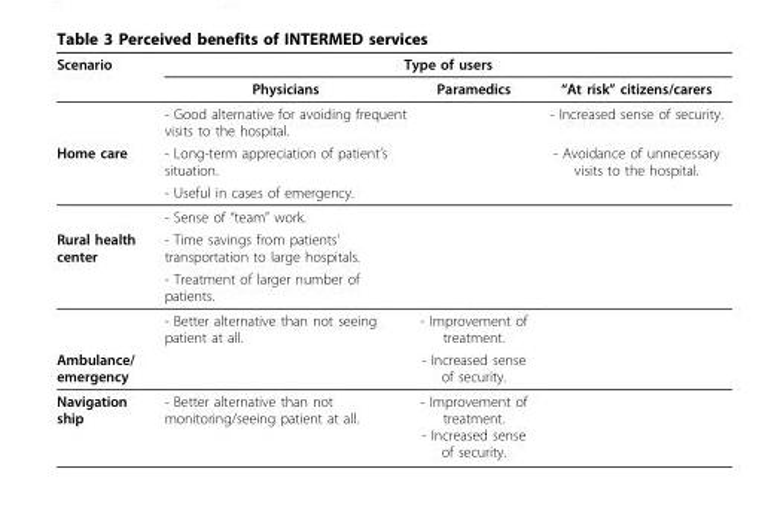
<table><thead><tr><td rowspan="2">Scenario</td><td colspan="3">Type of users</td></tr><tr><td>Physicians</td><td>Paramedics</td><td>“At risk” citizens/carers</td></tr></thead><tbody><tr><td></td><td>- Good alternative for avoiding frequent visits to the hospital.</td><td></td><td>- Increased sense of security.</td></tr><tr><td rowspan="3">Home care</td><td>- Long-term appreciation of patient’s situation.</td><td></td><td>- Avoidance of unnecessary visits to the hospital.</td></tr><tr><td>- Useful in cases of emergency.</td><td></td><td></td></tr><tr><td>- Sense of “team” work.</td><td></td><td></td></tr><tr><td rowspan="3">Rural health center</td><td>- Time savings from patients’ transportation to large hospitals.</td><td></td><td></td></tr><tr><td>- Treatment of larger number of patients.</td><td></td><td></td></tr><tr><td>- Better alternative than not seeing patient at all.</td><td>- Improvement of treatment.</td><td></td></tr><tr><td>Ambulance/ emergency</td><td></td><td>- Increased sense of security.</td><td></td></tr><tr><td>Navigation ship</td><td>- Better alternative than not monitoring/seeing patient at all.</td><td>- Improvement of treatment. - Increased sense of security.</td><td></td></tr></tbody></table>